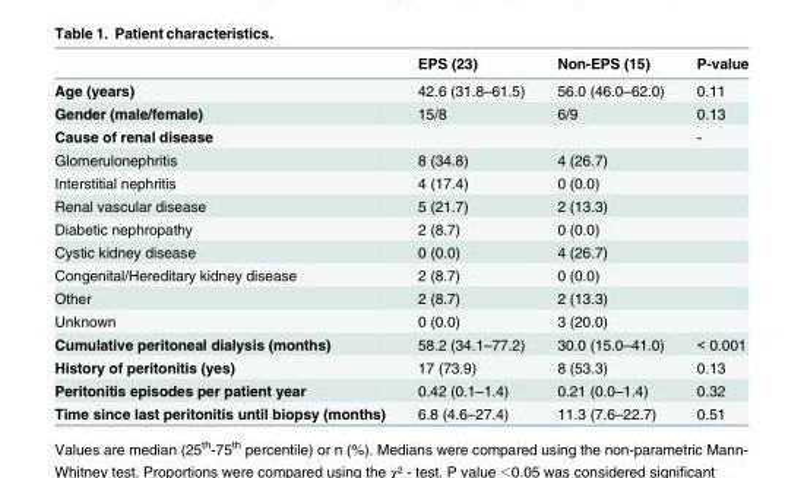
<table><thead><tr><td></td><td>EPS (23)</td><td>Non-EPS (15)</td><td>P-value</td></tr></thead><tbody><tr><td>Age (years)</td><td>42.6 (31.8–61.5)</td><td>56.0 (46.0–62.0)</td><td>0.11</td></tr><tr><td>Gender (male/female)</td><td>15/8</td><td>6/9</td><td>0.13</td></tr><tr><td>Cause of renal disease</td><td></td><td></td><td>-</td></tr><tr><td>Glomerulonephritis</td><td>8 (34.8)</td><td>4 (26.7)</td><td></td></tr><tr><td>Interstitial nephritis</td><td>4 (17.4)</td><td>0 (0.0)</td><td></td></tr><tr><td>Renal vascular disease</td><td>5 (21.7)</td><td>2 (13.3)</td><td></td></tr><tr><td>Diabetic nephropathy</td><td>2 (8.7)</td><td>0 (0.0)</td><td></td></tr><tr><td>Cystic kidney disease</td><td>0 (0.0)</td><td>4 (26.7)</td><td></td></tr><tr><td>Congenital/Hereditary kidney disease</td><td>2 (8.7)</td><td>0 (0.0)</td><td></td></tr><tr><td>Other</td><td>2 (8.7)</td><td>2 (13.3)</td><td></td></tr><tr><td>Unknown</td><td>0 (0.0)</td><td>3 (20.0)</td><td></td></tr><tr><td>Cumulative peritoneal dialysis (months)</td><td>58.2 (34.1–77.2)</td><td>30.0 (15.0–41.0)</td><td>&lt; 0.001</td></tr><tr><td>History of peritonitis (yes)</td><td>17 (73.9)</td><td>8 (53.3)</td><td>0.13</td></tr><tr><td>Peritonitis episodes per patient year</td><td>0.42 (0.1–1.4)</td><td>0.21 (0.0–1.4)</td><td>0.32</td></tr><tr><td>Time since last peritonitis until biopsy (months)</td><td>6.8 (4.6–27.4)</td><td>11.3 (7.6–22.7)</td><td>0.51</td></tr></tbody></table>